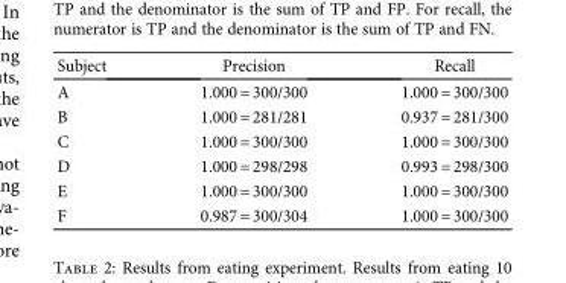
<table><thead><tr><td>Subject</td><td>Precision</td><td>Recall</td></tr></thead><tbody><tr><td>A</td><td>1.000 = 300/300</td><td>1.000 = 300/300</td></tr><tr><td>B</td><td>1.000 = 281/281</td><td>0.937 = 281/300</td></tr><tr><td>C</td><td>1.000 = 300/300</td><td>1.000 = 300/300</td></tr><tr><td>D</td><td>1.000 = 298/298</td><td>0.993 = 298/300</td></tr><tr><td>E</td><td>1.000 = 300/300</td><td>1.000 = 300/300</td></tr><tr><td>F</td><td>0.987 = 300/304</td><td>1.000 = 300/300</td></tr></tbody></table>